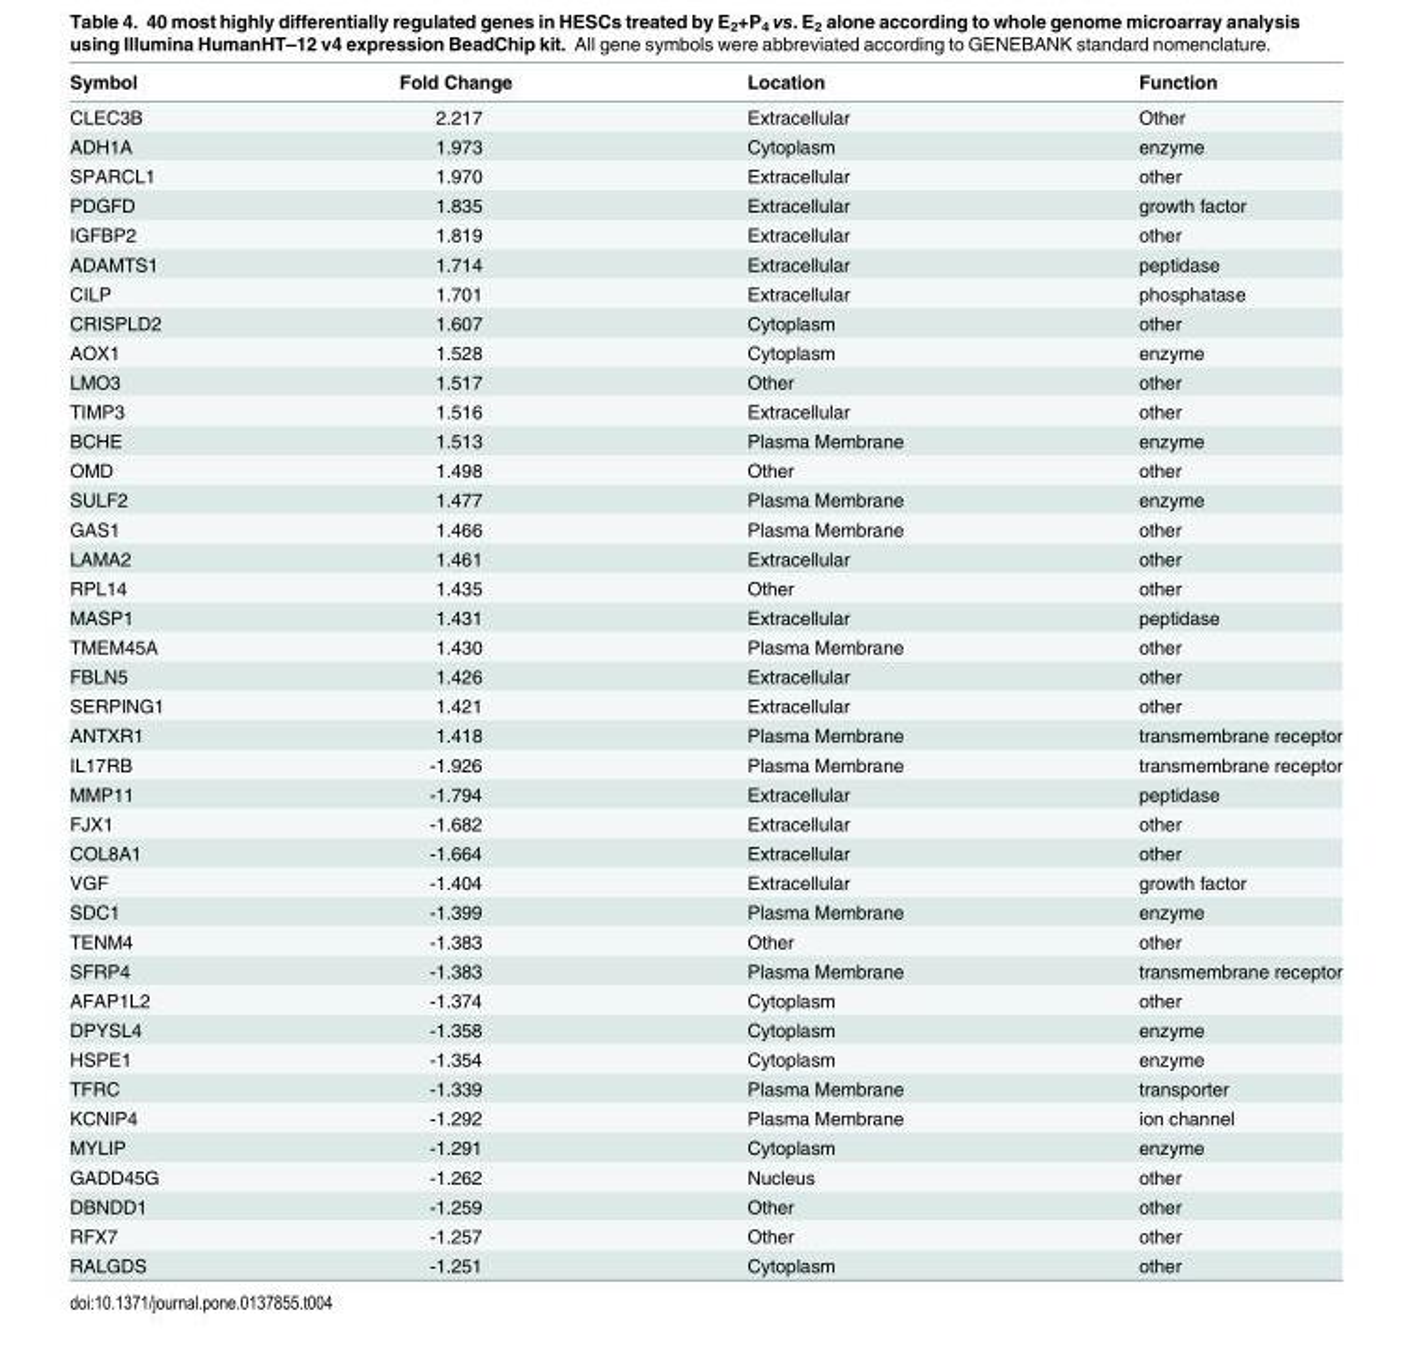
<table><thead><tr><td>Symbol</td><td>Fold Change</td><td>Location</td><td>Function</td></tr></thead><tbody><tr><td>CLEC3B</td><td>2.217</td><td>Extracellular</td><td>Other</td></tr><tr><td>ADH1A</td><td>1.973</td><td>Cytoplasm</td><td>enzyme</td></tr><tr><td>SPARCL1</td><td>1.970</td><td>Extracellular</td><td>other</td></tr><tr><td>PDGFD</td><td>1.835</td><td>Extracellular</td><td>growth factor</td></tr><tr><td>IGFBP2</td><td>1.819</td><td>Extracellular</td><td>other</td></tr><tr><td>ADAMTS1</td><td>1.714</td><td>Extracellular</td><td>peptidase</td></tr><tr><td>CILP</td><td>1.701</td><td>Extracellular</td><td>phosphatase</td></tr><tr><td>CRISPLD2</td><td>1.607</td><td>Cytoplasm</td><td>other</td></tr><tr><td>AOX1</td><td>1.528</td><td>Cytoplasm</td><td>enzyme</td></tr><tr><td>LMO3</td><td>1.517</td><td>Other</td><td>other</td></tr><tr><td>TIMP3</td><td>1.516</td><td>Extracellular</td><td>other</td></tr><tr><td>BCHE</td><td>1.513</td><td>Plasma Membrane</td><td>enzyme</td></tr><tr><td>OMD</td><td>1.498</td><td>Other</td><td>other</td></tr><tr><td>SULF2</td><td>1.477</td><td>Plasma Membrane</td><td>enzyme</td></tr><tr><td>GAS1</td><td>1.466</td><td>Plasma Membrane</td><td>other</td></tr><tr><td>LAMA2</td><td>1.461</td><td>Extracellular</td><td>other</td></tr><tr><td>RPL14</td><td>1.435</td><td>Other</td><td>other</td></tr><tr><td>MASP1</td><td>1.431</td><td>Extracellular</td><td>peptidase</td></tr><tr><td>TMEM45A</td><td>1.430</td><td>Plasma Membrane</td><td>other</td></tr><tr><td>FBLN5</td><td>1.426</td><td>Extracellular</td><td>other</td></tr><tr><td>SERPING1</td><td>1.421</td><td>Extracellular</td><td>other</td></tr><tr><td>ANTXR1</td><td>1.418</td><td>Plasma Membrane</td><td>transmembrane receptor</td></tr><tr><td>IL17RB</td><td>-1.926</td><td>Plasma Membrane</td><td>transmembrane receptor</td></tr><tr><td>MMP11</td><td>-1.794</td><td>Extracellular</td><td>peptidase</td></tr><tr><td>FJX1</td><td>-1.682</td><td>Extracellular</td><td>other</td></tr><tr><td>COL8A1</td><td>-1.664</td><td>Extracellular</td><td>other</td></tr><tr><td>VGF</td><td>-1.404</td><td>Extracellular</td><td>growth factor</td></tr><tr><td>SDC1</td><td>-1.399</td><td>Plasma Membrane</td><td>enzyme</td></tr><tr><td>TENM4</td><td>-1.383</td><td>Other</td><td>other</td></tr><tr><td>SFRP4</td><td>-1.383</td><td>Plasma Membrane</td><td>transmembrane receptor</td></tr><tr><td>AFAP1L2</td><td>-1.374</td><td>Cytoplasm</td><td>other</td></tr><tr><td>DPYSL4</td><td>-1.358</td><td>Cytoplasm</td><td>enzyme</td></tr><tr><td>HSPE1</td><td>-1.354</td><td>Cytoplasm</td><td>enzyme</td></tr><tr><td>TFRC</td><td>-1.339</td><td>Plasma Membrane</td><td>transporter</td></tr><tr><td>KCNIP4</td><td>-1.292</td><td>Plasma Membrane</td><td>ion channel</td></tr><tr><td>MYLIP</td><td>-1.291</td><td>Cytoplasm</td><td>enzyme</td></tr><tr><td>GADD45G</td><td>-1.262</td><td>Nucleus</td><td>other</td></tr><tr><td>DBNDD1</td><td>-1.259</td><td>Other</td><td>other</td></tr><tr><td>RFX7</td><td>-1.257</td><td>Other</td><td>other</td></tr><tr><td>RALGDS</td><td>-1.251</td><td>Cytoplasm</td><td>other</td></tr></tbody></table>